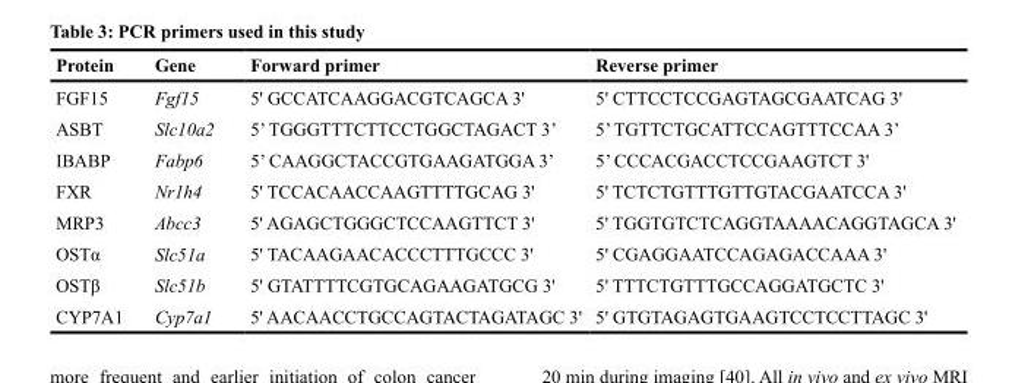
<table><thead><tr><td>Protein</td><td>Gene</td><td>Forward primer</td><td>Reverse primer</td></tr></thead><tbody><tr><td>FGF15</td><td>Fgf15</td><td>5&#x27; GCCATCAAGGACGTCAGCA 3&#x27;</td><td>5&#x27; CTTCCTCCGAGTAGCGAATCAG 3&#x27;</td></tr><tr><td>ASBT</td><td>Slc10a2</td><td>5’ TGGGTTTCTTCCTGGCTAGACT 3’</td><td>5’ TGTTCTGCATTCCAGTTTCCAA 3’</td></tr><tr><td>IBABP</td><td>Fabp6</td><td>5’ CAAGGCTACCGTGAAGATGGA 3’</td><td>5’ CCCACGACCTCCGAAGTCT 3&#x27;</td></tr><tr><td>FXR</td><td>Nr1h4</td><td>5&#x27; TCCACAACCAAGTTTTGCAG 3&#x27;</td><td>5&#x27; TCTCTGTTTGTTGTACGAATCCA 3&#x27;</td></tr><tr><td>MRP3</td><td>Abcc3</td><td>5&#x27; AGAGCTGGGCTCCAAGTTCT 3&#x27;</td><td>5&#x27; TGGTGTCTCAGGTAAAACAGGTAGCA 3&#x27;</td></tr><tr><td>OSTα</td><td>Slc51a</td><td>5&#x27; TACAAGAACACCCTTTGCCC 3&#x27;</td><td>5&#x27; CGAGGAATCCAGAGACCAAA 3&#x27;</td></tr><tr><td>OSTβ</td><td>Slc51b</td><td>5&#x27; GTATTTTCGTGCAGAAGATGCG 3&#x27;</td><td>5&#x27; TTTCTGTTTGCCAGGATGCTC 3&#x27;</td></tr><tr><td>CYP7A1</td><td>Cyp7a1</td><td>5&#x27; AACAACCTGCCAGTACTAGATAGC 3&#x27;</td><td>5&#x27; GTGTAGAGTGAAGTCCTCCTTAGC 3&#x27;</td></tr></tbody></table>